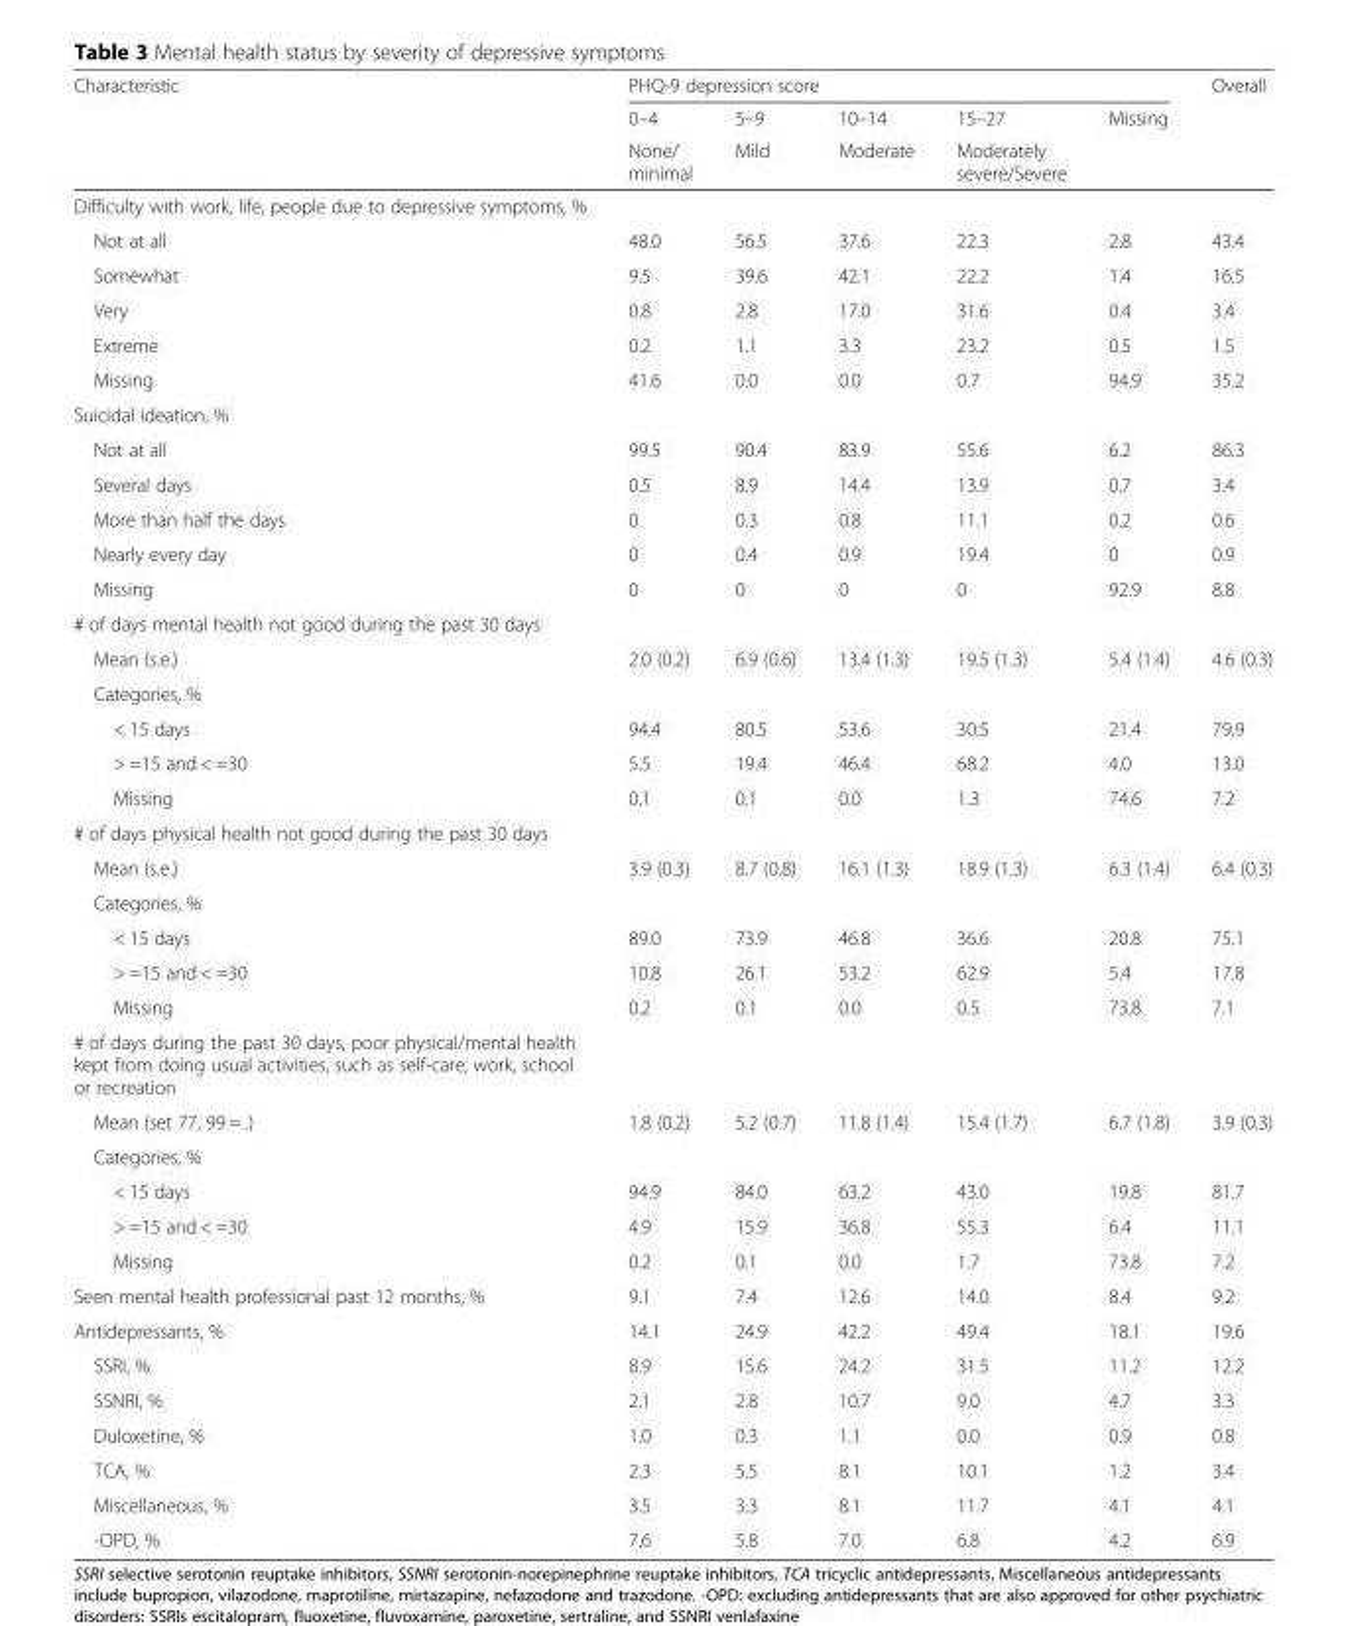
<table><thead><tr><td rowspan="3">Characteristic</td><td colspan="5">PHQ-9 depression score</td><td rowspan="3">Overall</td></tr><tr><td rowspan="2">0–4 None/ minimal</td><td rowspan="2">5–9 Mild</td><td rowspan="2">10–14 Moderate</td><td rowspan="2">15–27 Moderately severe/Severe</td><td rowspan="2">Missing</td></tr><tr></tr></thead><tbody><tr><td colspan="7">Difficulty with work, life, people due to depressive symptoms, %</td></tr><tr><td>Not at all</td><td>48.0</td><td>56.5</td><td>37.6</td><td>22.3</td><td>2.8</td><td>43.4</td></tr><tr><td>Somewhat</td><td>9.5</td><td>39.6</td><td>42.1</td><td>22.2</td><td>1.4</td><td>16.5</td></tr><tr><td>Very</td><td>0.8</td><td>2.8</td><td>17.0</td><td>31.6</td><td>0.4</td><td>3.4</td></tr><tr><td>Extreme</td><td>0.2</td><td>1.1</td><td>3.3</td><td>23.2</td><td>0.5</td><td>1.5</td></tr><tr><td>Missing</td><td>41.6</td><td>0.0</td><td>0.0</td><td>0.7</td><td>94.9</td><td>35.2</td></tr><tr><td colspan="7">Suicidal ideation, %</td></tr><tr><td>Not at all</td><td>99.5</td><td>90.4</td><td>83.9</td><td>55.6</td><td>6.2</td><td>86.3</td></tr><tr><td>Several days</td><td>0.5</td><td>8.9</td><td>14.4</td><td>13.9</td><td>0.7</td><td>3.4</td></tr><tr><td>More than half the days</td><td>0</td><td>0.3</td><td>0.8</td><td>11.1</td><td>0.2</td><td>0.6</td></tr><tr><td>Nearly every day</td><td>0</td><td>0.4</td><td>0.9</td><td>19.4</td><td>0</td><td>0.9</td></tr><tr><td>Missing</td><td>0</td><td>0</td><td>0</td><td>0</td><td>92.9</td><td>8.8</td></tr><tr><td colspan="7"># of days mental health not good during the past 30 days</td></tr><tr><td>Mean (s.e.)</td><td>2.0 (0.2)</td><td>6.9 (0.6)</td><td>13.4 (1.3)</td><td>19.5 (1.3)</td><td>5.4 (1.4)</td><td>4.6 (0.3)</td></tr><tr><td colspan="7">Categories, %</td></tr><tr><td>&lt; 15 days</td><td>94.4</td><td>80.5</td><td>53.6</td><td>30.5</td><td>21.4</td><td>79.9</td></tr><tr><td>&gt; =15 and &lt; =30</td><td>5.5</td><td>19.4</td><td>46.4</td><td>68.2</td><td>4.0</td><td>13.0</td></tr><tr><td>Missing</td><td>0.1</td><td>0.1</td><td>0.0</td><td>1.3</td><td>74.6</td><td>7.2</td></tr><tr><td colspan="7"># of days physical health not good during the past 30 days</td></tr><tr><td>Mean (s.e.)</td><td>3.9 (0.3)</td><td>8.7 (0.8)</td><td>16.1 (1.3)</td><td>18.9 (1.3)</td><td>6.3 (1.4)</td><td>6.4 (0.3)</td></tr><tr><td colspan="7">Categories, %</td></tr><tr><td>&lt; 15 days</td><td>89.0</td><td>73.9</td><td>46.8</td><td>36.6</td><td>20.8</td><td>75.1</td></tr><tr><td>&gt; =15 and &lt; =30</td><td>10.8</td><td>26.1</td><td>53.2</td><td>62.9</td><td>5.4</td><td>17.8</td></tr><tr><td>Missing</td><td>0.2</td><td>0.1</td><td>0.0</td><td>0.5</td><td>73.8</td><td>7.1</td></tr><tr><td colspan="7"># of days during the past 30 days, poor physical/mental health kept from doing usual activities, such as self-care, work, school or recreation</td></tr><tr><td>Mean (set 77, 99 = .)</td><td>1.8 (0.2)</td><td>5.2 (0.7)</td><td>11.8 (1.4)</td><td>15.4 (1.7)</td><td>6.7 (1.8)</td><td>3.9 (0.3)</td></tr><tr><td colspan="7">Categories, %</td></tr><tr><td>&lt; 15 days</td><td>94.9</td><td>84.0</td><td>63.2</td><td>43.0</td><td>19.8</td><td>81.7</td></tr><tr><td>&gt; =15 and &lt; =30</td><td>4.9</td><td>15.9</td><td>36.8</td><td>55.3</td><td>6.4</td><td>11.1</td></tr><tr><td>Missing</td><td>0.2</td><td>0.1</td><td>0.0</td><td>1.7</td><td>73.8</td><td>7.2</td></tr><tr><td>Seen mental health professional past 12 months, %</td><td>9.1</td><td>7.4</td><td>12.6</td><td>14.0</td><td>8.4</td><td>9.2</td></tr><tr><td>Antidepressants, %</td><td>14.1</td><td>24.9</td><td>42.2</td><td>49.4</td><td>18.1</td><td>19.6</td></tr><tr><td>SSRI, %</td><td>8.9</td><td>15.6</td><td>24.2</td><td>31.5</td><td>11.2</td><td>12.2</td></tr><tr><td>SSNRI, %</td><td>2.1</td><td>2.8</td><td>10.7</td><td>9.0</td><td>4.7</td><td>3.3</td></tr><tr><td>Duloxetine, %</td><td>1.0</td><td>0.3</td><td>1.1</td><td>0.0</td><td>0.9</td><td>0.8</td></tr><tr><td>TCA, %</td><td>2.3</td><td>5.5</td><td>8.1</td><td>10.1</td><td>1.2</td><td>3.4</td></tr><tr><td>Miscellaneous, %</td><td>3.5</td><td>3.3</td><td>8.1</td><td>11.7</td><td>4.1</td><td>4.1</td></tr><tr><td>-OPD, %</td><td>7.6</td><td>5.8</td><td>7.0</td><td>6.8</td><td>4.2</td><td>6.9</td></tr></tbody></table>